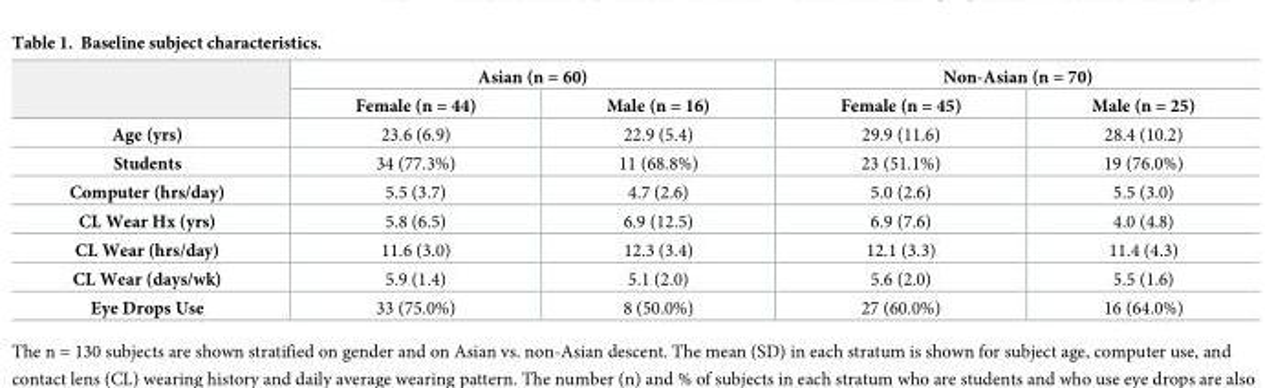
<table><thead><tr><td rowspan="2"></td><td colspan="2">Asian (n = 60)</td><td colspan="2">Non-Asian (n = 70)</td></tr><tr><td>Female (n = 44)</td><td>Male (n = 16)</td><td>Female (n = 45)</td><td>Male (n = 25)</td></tr></thead><tbody><tr><td>Age (yrs)</td><td>23.6 (6.9)</td><td>22.9 (5.4)</td><td>29.9 (11.6)</td><td>28.4 (10.2)</td></tr><tr><td>Students</td><td>34 (77.3%)</td><td>11 (68.8%)</td><td>23 (51.1%)</td><td>19 (76.0%)</td></tr><tr><td>Computer (hrs/day)</td><td>5.5 (3.7)</td><td>4.7 (2.6)</td><td>5.0 (2.6)</td><td>5.5 (3.0)</td></tr><tr><td>CL Wear Hx (yrs)</td><td>5.8 (6.5)</td><td>6.9 (12.5)</td><td>6.9 (7.6)</td><td>4.0 (4.8)</td></tr><tr><td>CL Wear (hrs/day)</td><td>11.6 (3.0)</td><td>12.3 (3.4)</td><td>12.1 (3.3)</td><td>11.4 (4.3)</td></tr><tr><td>CL Wear (days/wk)</td><td>5.9 (1.4)</td><td>5.1 (2.0)</td><td>5.6 (2.0)</td><td>5.5 (1.6)</td></tr><tr><td>Eye Drops Use</td><td>33 (75.0%)</td><td>8 (50.0%)</td><td>27 (60.0%)</td><td>16 (64.0%)</td></tr></tbody></table>